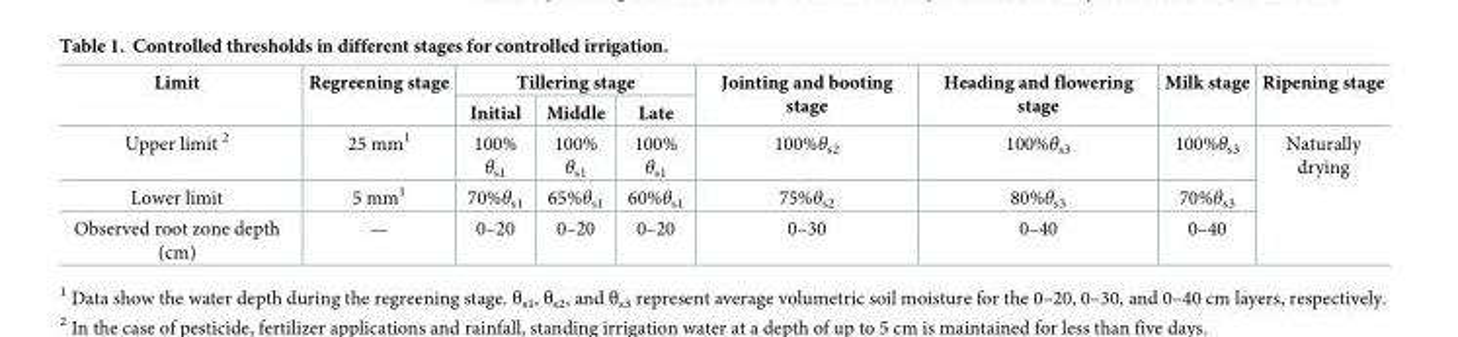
<table><thead><tr><td rowspan="2">Limit</td><td rowspan="2">Regreening stage</td><td colspan="3">Tillering stage</td><td rowspan="2">Jointing and booting stage</td><td rowspan="2">Heading and flowering stage</td><td rowspan="2">Milk stage</td><td rowspan="2">Ripening stage</td></tr><tr><td>Initial</td><td>Middle</td><td>Late</td></tr></thead><tbody><tr><td>Upper limit <sup>2</sup></td><td>25 mm<sup>1</sup></td><td>100% θ<sub>s1</sub></td><td>100% θ<sub>s1</sub></td><td>100% θ<sub>s1</sub></td><td>100%θ<sub>s2</sub></td><td>100%θ<sub>s3</sub></td><td>100%θ<sub>s3</sub></td><td rowspan="3">Naturally drying</td></tr><tr><td>Lower limit</td><td>5 mm<sup>1</sup></td><td>70%θ<sub>s1</sub></td><td>65%θ<sub>s1</sub></td><td>60%θ<sub>s1</sub></td><td>75%θ<sub>s2</sub></td><td>80%θ<sub>s3</sub></td><td>70%θ<sub>s3</sub></td></tr><tr><td>Observed root zone depth (cm)</td><td>—</td><td>0–20</td><td>0–20</td><td>0–20</td><td>0–30</td><td>0–40</td><td>0–40</td></tr></tbody></table>